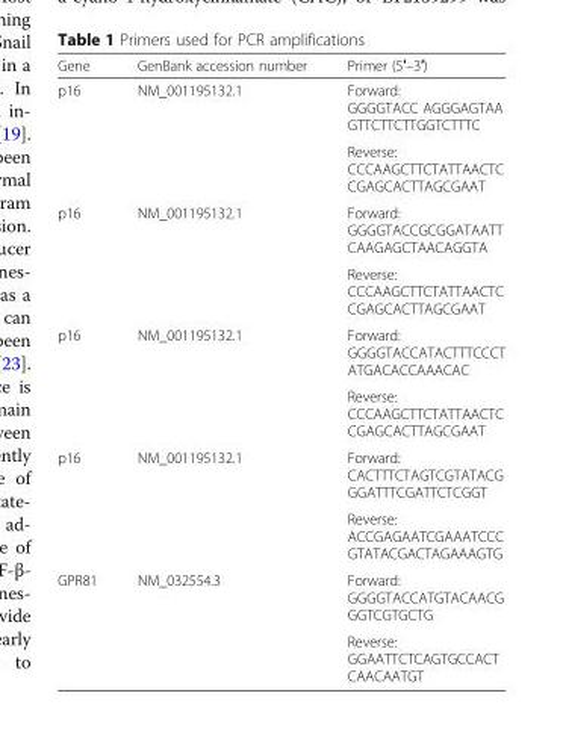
<table><thead><tr><td>Gene</td><td>GenBank accession number</td><td>Primer (5′–3′)</td></tr></thead><tbody><tr><td rowspan="2">p16</td><td>NM_001195132.1</td><td>Forward: GGGGTACC AGGGAGTAA GTTCTTCTTGGTCTTTC</td></tr><tr><td></td><td>Reverse: CCCAAGCTTCTATTAACTC CGAGCACTTAGCGAAT</td></tr><tr><td rowspan="2">p16</td><td>NM_001195132.1</td><td>Forward: GGGGTACCGCGGATAATT CAAGAGCTAACAGGTA</td></tr><tr><td></td><td>Reverse: CCCAAGCTTCTATTAACTC CGAGCACTTAGCGAAT</td></tr><tr><td rowspan="2">p16</td><td>NM_001195132.1</td><td>Forward: GGGGTACCATACTTTCCCT ATGACACCAAACAC</td></tr><tr><td></td><td>Reverse: CCCAAGCTTCTATTAACTC CGAGCACTTAGCGAAT</td></tr><tr><td rowspan="2">p16</td><td>NM_001195132.1</td><td>Forward: CACTTTCTAGTCGTATACG GGATTTCGATTCTCGGT</td></tr><tr><td></td><td>Reverse: ACCGAGAATCGAAATCCC GTATACGACTAGAAAGTG</td></tr><tr><td rowspan="2">GPR81</td><td>NM_032554.3</td><td>Forward: GGGGTACCATGTACAACG GGTCGTGCTG</td></tr><tr><td></td><td>Reverse: GGAATTCTCAGTGCCACT CAACAATGT</td></tr></tbody></table>